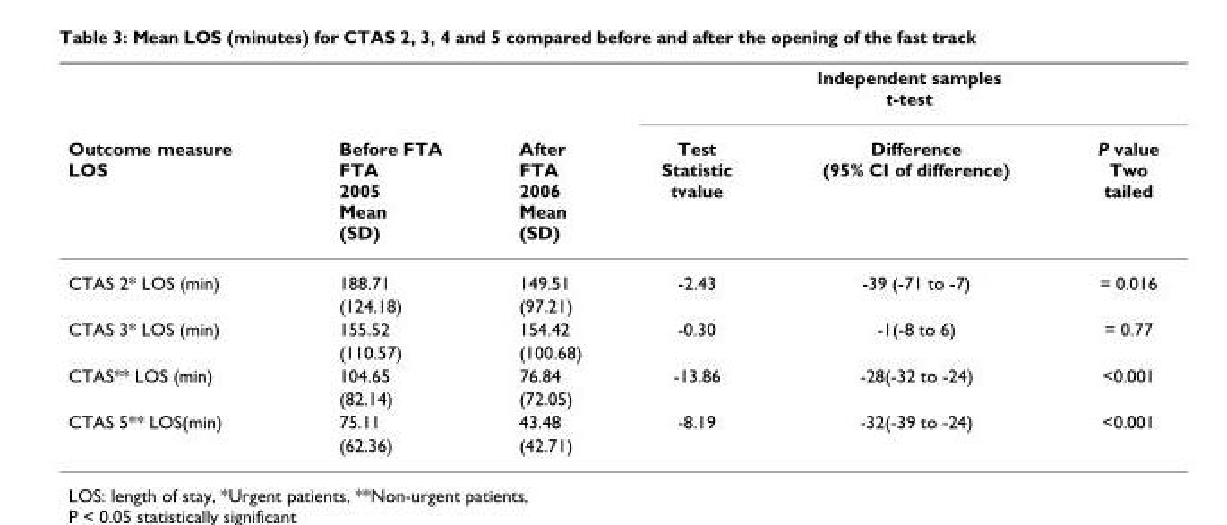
<table><thead><tr><td rowspan="2">Outcome measure LOS</td><td rowspan="2">Before FTA FTA 2005 Mean (SD)</td><td rowspan="2">After FTA 2006 Mean (SD)</td><td colspan="3">Independent samples t-test</td></tr><tr><td>Test Statistic tvalue</td><td>Difference (95% CI of difference)</td><td>P value Two tailed</td></tr></thead><tbody><tr><td rowspan="2">CTAS 2* LOS (min)</td><td>188.71</td><td>149.51</td><td>-2.43</td><td>-39 (-71 to -7)</td><td>= 0.016</td></tr><tr><td>(124.18)</td><td>(97.21)</td><td></td><td></td><td></td></tr><tr><td rowspan="2">CTAS 3* LOS (min)</td><td>155.52</td><td>154.42</td><td>-0.30</td><td>-1(-8 to 6)</td><td>= 0.77</td></tr><tr><td>(110.57)</td><td>(100.68)</td><td></td><td></td><td></td></tr><tr><td rowspan="2">CTAS** LOS (min)</td><td>104.65</td><td>76.84</td><td>-13.86</td><td>-28(-32 to -24)</td><td>&lt;0.001</td></tr><tr><td>(82.14)</td><td>(72.05)</td><td></td><td></td><td></td></tr><tr><td rowspan="2">CTAS 5** LOS(min)</td><td>75.11</td><td>43.48</td><td>-8.19</td><td>-32(-39 to -24)</td><td>&lt;0.001</td></tr><tr><td>(62.36)</td><td>(42.71)</td><td></td><td></td><td></td></tr></tbody></table>